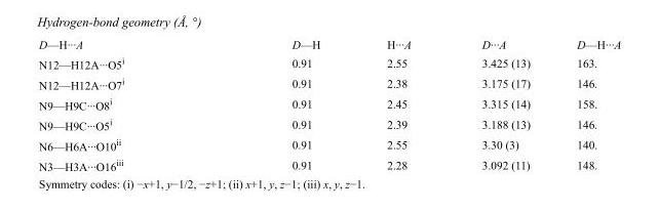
<table><tbody><tr><td>D—H···A</td><td>D—H</td><td>H···A</td><td>D···A</td><td>D—H···A</td></tr><tr><td>N12—H12A···O5<sup>i</sup></td><td>0.91</td><td>2.55</td><td>3.425 (13)</td><td>163.</td></tr><tr><td>N12—H12A···O7<sup>i</sup></td><td>0.91</td><td>2.38</td><td>3.175 (17)</td><td>146.</td></tr><tr><td>N9—H9C···O8<sup>i</sup></td><td>0.91</td><td>2.45</td><td>3.315 (14)</td><td>158.</td></tr><tr><td>N9—H9C···O5<sup>i</sup></td><td>0.91</td><td>2.39</td><td>3.188 (13)</td><td>146.</td></tr><tr><td>N6—H6A···O10<sup>ii</sup></td><td>0.91</td><td>2.55</td><td>3.30 (3)</td><td>140.</td></tr><tr><td>N3—H3A···O16<sup>iii</sup></td><td>0.91</td><td>2.28</td><td>3.092 (11)</td><td>148.</td></tr></tbody></table>